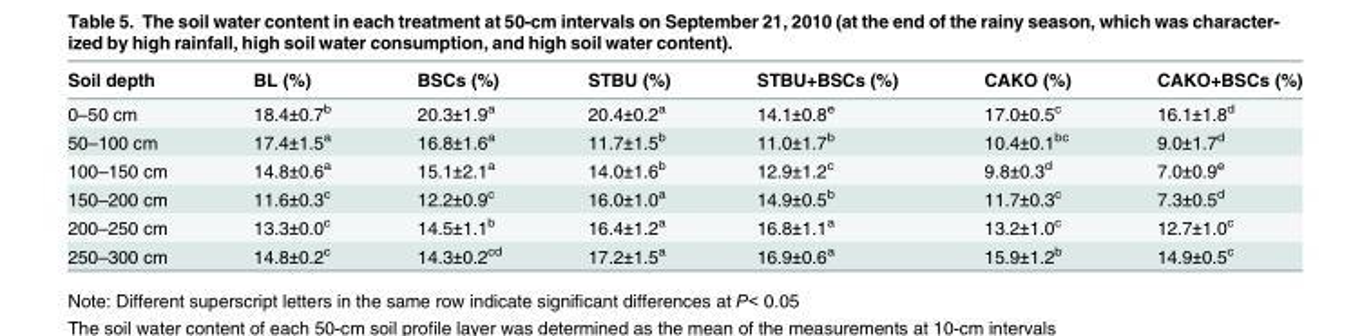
<table><thead><tr><td>Soil depth</td><td>BL (%)</td><td>BSCs (%)</td><td>STBU (%)</td><td>STBU+BSCs (%)</td><td>CAKO (%)</td><td>CAKO+BSCs (%)</td></tr></thead><tbody><tr><td>0–50 cm</td><td>18.4±0.7<sup>b</sup></td><td>20.3±1.9<sup>a</sup></td><td>20.4±0.2<sup>a</sup></td><td>14.1±0.8<sup>e</sup></td><td>17.0±0.5<sup>c</sup></td><td>16.1±1.8<sup>d</sup></td></tr><tr><td>50–100 cm</td><td>17.4±1.5<sup>a</sup></td><td>16.8±1.6<sup>a</sup></td><td>11.7±1.5<sup>b</sup></td><td>11.0±1.7<sup>b</sup></td><td>10.4±0.1<sup>bc</sup></td><td>9.0±1.7<sup>d</sup></td></tr><tr><td>100–150 cm</td><td>14.8±0.6<sup>a</sup></td><td>15.1±2.1<sup>a</sup></td><td>14.0±1.6<sup>b</sup></td><td>12.9±1.2<sup>c</sup></td><td>9.8±0.3<sup>d</sup></td><td>7.0±0.9<sup>e</sup></td></tr><tr><td>150–200 cm</td><td>11.6±0.3<sup>c</sup></td><td>12.2±0.9<sup>c</sup></td><td>16.0±1.0<sup>a</sup></td><td>14.9±0.5<sup>b</sup></td><td>11.7±0.3<sup>c</sup></td><td>7.3±0.5<sup>d</sup></td></tr><tr><td>200–250 cm</td><td>13.3±0.0<sup>c</sup></td><td>14.5±1.1<sup>b</sup></td><td>16.4±1.2<sup>a</sup></td><td>16.8±1.1<sup>a</sup></td><td>13.2±1.0<sup>c</sup></td><td>12.7±1.0<sup>c</sup></td></tr><tr><td>250–300 cm</td><td>14.8±0.2<sup>c</sup></td><td>14.3±0.2<sup>cd</sup></td><td>17.2±1.5<sup>a</sup></td><td>16.9±0.6<sup>a</sup></td><td>15.9±1.2<sup>b</sup></td><td>14.9±0.5<sup>c</sup></td></tr></tbody></table>